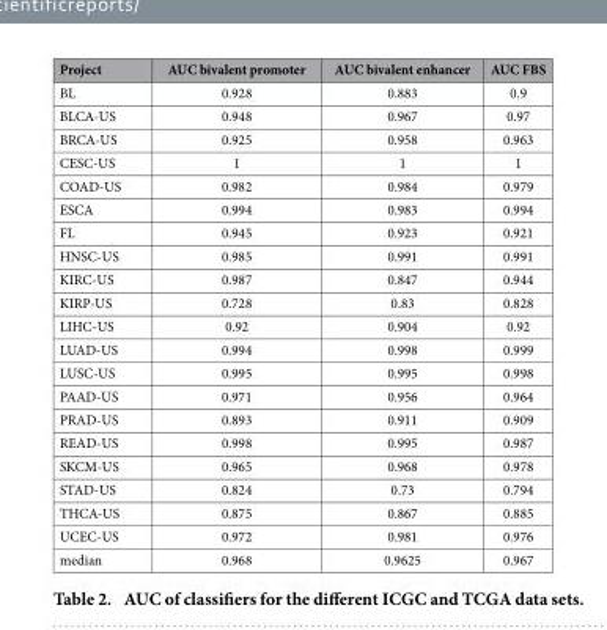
<table><thead><tr><td>Project</td><td>AUC bivalent promoter</td><td>AUC bivalent enhancer</td><td>AUC FBS</td></tr></thead><tbody><tr><td>BL</td><td>0.928</td><td>0.883</td><td>0.9</td></tr><tr><td>BLCA-US</td><td>0.948</td><td>0.967</td><td>0.97</td></tr><tr><td>BRCA-US</td><td>0.925</td><td>0.958</td><td>0.963</td></tr><tr><td>CESC-US</td><td>1</td><td>1</td><td>1</td></tr><tr><td>COAD-US</td><td>0.982</td><td>0.984</td><td>0.979</td></tr><tr><td>ESCA</td><td>0.994</td><td>0.983</td><td>0.994</td></tr><tr><td>FL</td><td>0.945</td><td>0.923</td><td>0.921</td></tr><tr><td>HNSC-US</td><td>0.985</td><td>0.991</td><td>0.991</td></tr><tr><td>KIRC-US</td><td>0.987</td><td>0.847</td><td>0.944</td></tr><tr><td>KIRP-US</td><td>0.728</td><td>0.83</td><td>0.828</td></tr><tr><td>LIHC-US</td><td>0.92</td><td>0.904</td><td>0.92</td></tr><tr><td>LUAD-US</td><td>0.994</td><td>0.998</td><td>0.999</td></tr><tr><td>LUSC-US</td><td>0.995</td><td>0.995</td><td>0.998</td></tr><tr><td>PAAD-US</td><td>0.971</td><td>0.956</td><td>0.964</td></tr><tr><td>PRAD-US</td><td>0.893</td><td>0.911</td><td>0.909</td></tr><tr><td>READ-US</td><td>0.998</td><td>0.995</td><td>0.987</td></tr><tr><td>SKCM-US</td><td>0.965</td><td>0.968</td><td>0.978</td></tr><tr><td>STAD-US</td><td>0.824</td><td>0.73</td><td>0.794</td></tr><tr><td>THCA-US</td><td>0.875</td><td>0.867</td><td>0.885</td></tr><tr><td>UCEC-US</td><td>0.972</td><td>0.981</td><td>0.976</td></tr><tr><td>median</td><td>0.968</td><td>0.9625</td><td>0.967</td></tr></tbody></table>